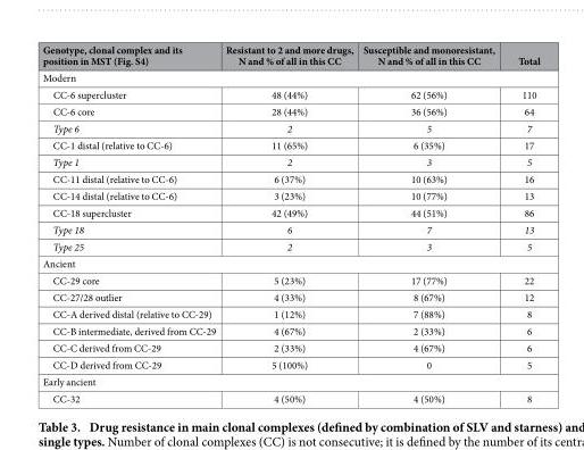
<table><thead><tr><td>Genotype, clonal complex and its position in MST (Fig. S4)</td><td>Resistant to 2 and more drugs, N and % of all in this CC</td><td>Susceptible and monoresistant, N and % of all in this CC</td><td>Total</td></tr></thead><tbody><tr><td colspan="4">Modern</td></tr><tr><td>CC-6 supercluster</td><td>48 (44%)</td><td>62 (56%)</td><td>110</td></tr><tr><td>CC-6 core</td><td>28 (44%)</td><td>36 (56%)</td><td>64</td></tr><tr><td>Type 6</td><td>2</td><td>5</td><td>7</td></tr><tr><td>CC-1 distal (relative to CC-6)</td><td>11 (65%)</td><td>6 (35%)</td><td>17</td></tr><tr><td>Type 1</td><td>2</td><td>3</td><td>5</td></tr><tr><td>CC-11 distal (relative to CC-6)</td><td>6 (37%)</td><td>10 (63%)</td><td>16</td></tr><tr><td>CC-14 distal (relative to CC-6)</td><td>3 (23%)</td><td>10 (77%)</td><td>13</td></tr><tr><td>CC-18 supercluster</td><td>42 (49%)</td><td>44 (51%)</td><td>86</td></tr><tr><td>Type 18</td><td>6</td><td>7</td><td>13</td></tr><tr><td>Type 25</td><td>2</td><td>3</td><td>5</td></tr><tr><td colspan="4">Ancient</td></tr><tr><td>CC-29 core</td><td>5 (23%)</td><td>17 (77%)</td><td>22</td></tr><tr><td>CC-27/28 outlier</td><td>4 (33%)</td><td>8 (67%)</td><td>12</td></tr><tr><td>CC-A derived distal (relative to CC-29)</td><td>1 (12%)</td><td>7 (88%)</td><td>8</td></tr><tr><td>CC-B intermediate, derived from CC-29</td><td>4 (67%)</td><td>2 (33%)</td><td>6</td></tr><tr><td>CC-C derived from CC-29</td><td>2 (33%)</td><td>4 (67%)</td><td>6</td></tr><tr><td>CC-D derived from CC-29</td><td>5 (100%)</td><td>0</td><td>5</td></tr><tr><td colspan="4">Early ancient</td></tr><tr><td>CC-32</td><td>4 (50%)</td><td>4 (50%)</td><td>8</td></tr></tbody></table>